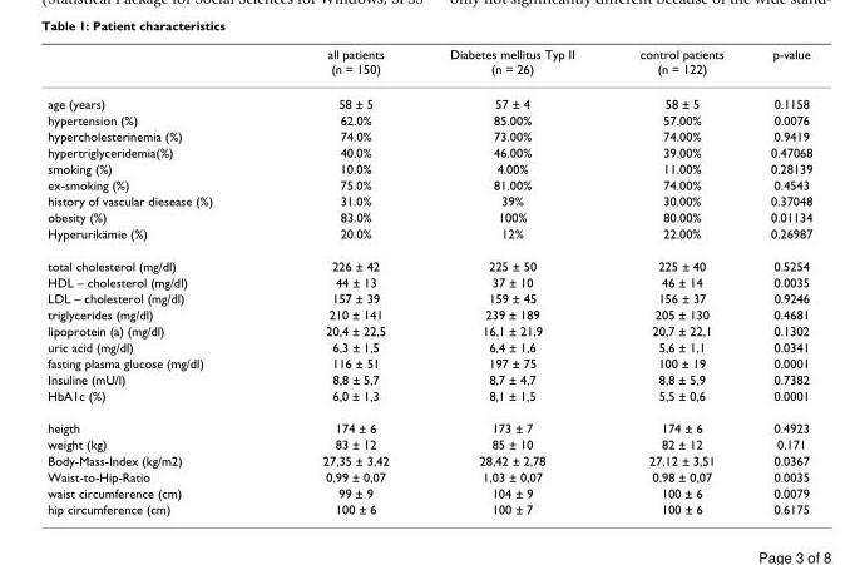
<table><thead><tr><td></td><td>all patients (n = 150)</td><td>Diabetes mellitus Typ II (n = 26)</td><td>control patients (n = 122)</td><td>p-value</td></tr></thead><tbody><tr><td>age (years)</td><td>58 ± 5</td><td>57 ± 4</td><td>58 ± 5</td><td>0.1158</td></tr><tr><td>hypertension (%)</td><td>62.0%</td><td>85.00%</td><td>57.00%</td><td>0.0076</td></tr><tr><td>hypercholesterinemia (%)</td><td>74.0%</td><td>73.00%</td><td>74.00%</td><td>0.9419</td></tr><tr><td>hypertriglyceridemia(%)</td><td>40.0%</td><td>46.00%</td><td>39.00%</td><td>0.47068</td></tr><tr><td>smoking (%)</td><td>10.0%</td><td>4.00%</td><td>11.00%</td><td>0.28139</td></tr><tr><td>ex-smoking (%)</td><td>75.0%</td><td>81.00%</td><td>74.00%</td><td>0.4543</td></tr><tr><td>history of vascular diesease (%)</td><td>31.0%</td><td>39%</td><td>30.00%</td><td>0.37048</td></tr><tr><td>obesity (%)</td><td>83.0%</td><td>100%</td><td>80.00%</td><td>0.01134</td></tr><tr><td>Hyperurikämie (%)</td><td>20.0%</td><td>12%</td><td>22.00%</td><td>0.26987</td></tr><tr><td>total cholesterol (mg/dl)</td><td>226 ± 42</td><td>225 ± 50</td><td>225 ± 40</td><td>0.5254</td></tr><tr><td>HDL – cholesterol (mg/dl)</td><td>44 ± 13</td><td>37 ± 10</td><td>46 ± 14</td><td>0.0035</td></tr><tr><td>LDL – cholesterol (mg/dl)</td><td>157 ± 39</td><td>159 ± 45</td><td>156 ± 37</td><td>0.9246</td></tr><tr><td>triglycerides (mg/dl)</td><td>210 ± 141</td><td>239 ± 189</td><td>205 ± 130</td><td>0.4681</td></tr><tr><td>lipoprotein (a) (mg/dl)</td><td>20,4 ± 22,5</td><td>16,1 ± 21,9</td><td>20,7 ± 22,1</td><td>0.1302</td></tr><tr><td>uric acid (mg/dl)</td><td>6,3 ± 1,5</td><td>6,4 ± 1,6</td><td>5,6 ± 1,1</td><td>0.0341</td></tr><tr><td>fasting plasma glucose (mg/dl)</td><td>116 ± 51</td><td>197 ± 75</td><td>100 ± 19</td><td>0.0001</td></tr><tr><td>Insuline (mU/l)</td><td>8,8 ± 5,7</td><td>8,7 ± 4,7</td><td>8,8 ± 5,9</td><td>0.7382</td></tr><tr><td>HbA1c (%)</td><td>6,0 ± 1,3</td><td>8,1 ± 1,5</td><td>5,5 ± 0,6</td><td>0.0001</td></tr><tr><td>heigth</td><td>174 ± 6</td><td>173 ± 7</td><td>174 ± 6</td><td>0.4923</td></tr><tr><td>weight (kg)</td><td>83 ± 12</td><td>85 ± 10</td><td>82 ± 12</td><td>0.171</td></tr><tr><td>Body-Mass-Index (kg/m2)</td><td>27,35 ± 3,42</td><td>28,42 ± 2,78</td><td>27,12 ± 3,51</td><td>0.0367</td></tr><tr><td>Waist-to-Hip-Ratio</td><td>0,99 ± 0,07</td><td>1,03 ± 0,07</td><td>0,98 ± 0,07</td><td>0.0035</td></tr><tr><td>waist circumference (cm)</td><td>99 ± 9</td><td>104 ± 9</td><td>100 ± 6</td><td>0.0079</td></tr><tr><td>hip circumference (cm)</td><td>100 ± 6</td><td>100 ± 7</td><td>100 ± 6</td><td>0.6175</td></tr></tbody></table>